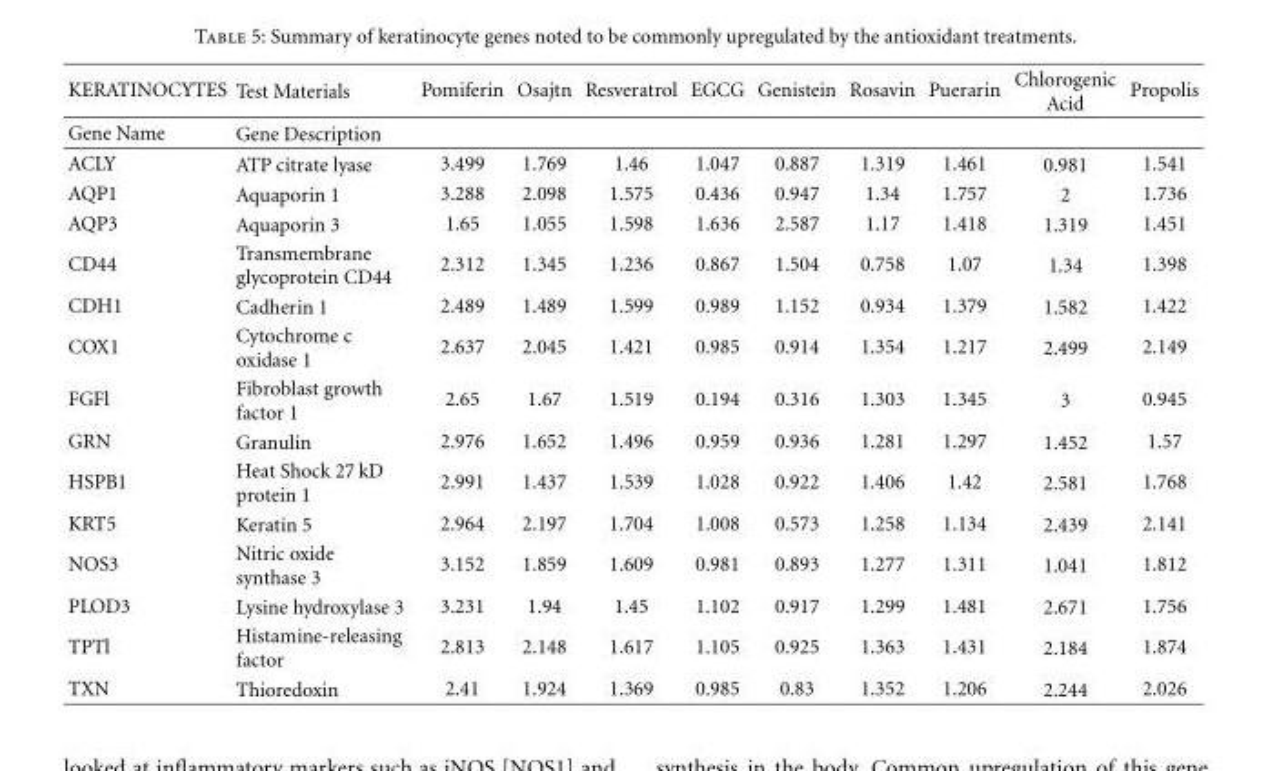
<table><thead><tr><td>KERATINOCYTES</td><td>Test Materials</td><td>Pomiferin</td><td>Osajtn</td><td>Resveratrol</td><td>EGCG</td><td>Genistein</td><td>Rosavin</td><td>Puerarin</td><td>Chlorogenic Acid</td><td>Propolis</td></tr></thead><tbody><tr><td>Gene Name</td><td>Gene Description</td><td></td><td></td><td></td><td></td><td></td><td></td><td></td><td></td><td></td></tr><tr><td>ACLY</td><td>ATP citrate lyase</td><td>3.499</td><td>1.769</td><td>1.46</td><td>1.047</td><td>0.887</td><td>1.319</td><td>1.461</td><td>0.981</td><td>1.541</td></tr><tr><td>AQP1</td><td>Aquaporin 1</td><td>3.288</td><td>2.098</td><td>1.575</td><td>0.436</td><td>0.947</td><td>1.34</td><td>1.757</td><td>2</td><td>1.736</td></tr><tr><td>AQP3</td><td>Aquaporin 3</td><td>1.65</td><td>1.055</td><td>1.598</td><td>1.636</td><td>2.587</td><td>1.17</td><td>1.418</td><td>1.319</td><td>1.451</td></tr><tr><td>CD44</td><td>Transmembrane glycoprotein CD44</td><td>2.312</td><td>1.345</td><td>1.236</td><td>0.867</td><td>1.504</td><td>0.758</td><td>1.07</td><td>1.34</td><td>1.398</td></tr><tr><td>CDH1</td><td>Cadherin 1</td><td>2.489</td><td>1.489</td><td>1.599</td><td>0.989</td><td>1.152</td><td>0.934</td><td>1.379</td><td>1.582</td><td>1.422</td></tr><tr><td>COX1</td><td>Cytochrome c oxidase 1</td><td>2.637</td><td>2.045</td><td>1.421</td><td>0.985</td><td>0.914</td><td>1.354</td><td>1.217</td><td>2.499</td><td>2.149</td></tr><tr><td>FGFl</td><td>Fibroblast growth factor 1</td><td>2.65</td><td>1.67</td><td>1.519</td><td>0.194</td><td>0.316</td><td>1.303</td><td>1.345</td><td>3</td><td>0.945</td></tr><tr><td>GRN</td><td>Granulin</td><td>2.976</td><td>1.652</td><td>1.496</td><td>0.959</td><td>0.936</td><td>1.281</td><td>1.297</td><td>1.452</td><td>1.57</td></tr><tr><td>HSPB1</td><td>Heat Shock 27 kD protein 1</td><td>2.991</td><td>1.437</td><td>1.539</td><td>1.028</td><td>0.922</td><td>1.406</td><td>1.42</td><td>2.581</td><td>1.768</td></tr><tr><td>KRT5</td><td>Keratin 5</td><td>2.964</td><td>2.197</td><td>1.704</td><td>1.008</td><td>0.573</td><td>1.258</td><td>1.134</td><td>2.439</td><td>2.141</td></tr><tr><td>NOS3</td><td>Nitric oxide synthase 3</td><td>3.152</td><td>1.859</td><td>1.609</td><td>0.981</td><td>0.893</td><td>1.277</td><td>1.311</td><td>1.041</td><td>1.812</td></tr><tr><td>PLOD3</td><td>Lysine hydroxylase 3</td><td>3.231</td><td>1.94</td><td>1.45</td><td>1.102</td><td>0.917</td><td>1.299</td><td>1.481</td><td>2.671</td><td>1.756</td></tr><tr><td>TPTl</td><td>Histamine-releasing factor</td><td>2.813</td><td>2.148</td><td>1.617</td><td>1.105</td><td>0.925</td><td>1.363</td><td>1.431</td><td>2.184</td><td>1.874</td></tr><tr><td>TXN</td><td>Thioredoxin</td><td>2.41</td><td>1.924</td><td>1.369</td><td>0.985</td><td>0.83</td><td>1.352</td><td>1.206</td><td>2.244</td><td>2.026</td></tr></tbody></table>